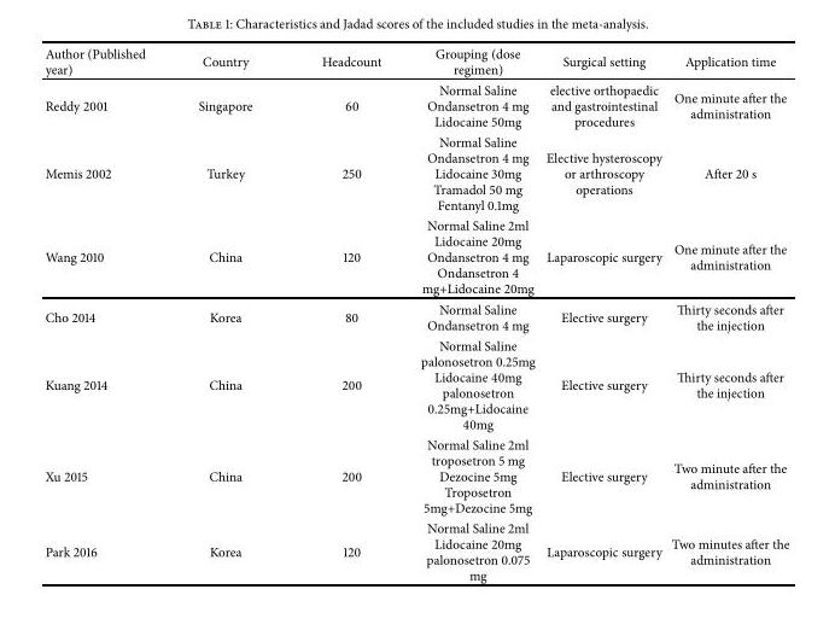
<table><thead><tr><td>Author (Published year)</td><td>Country</td><td>Headcount</td><td>Grouping (dose regimen)</td><td>Surgical setting</td><td>Application time</td></tr></thead><tbody><tr><td>Reddy 2001</td><td>Singapore</td><td>60</td><td>Normal Saline Ondansetron 4 mg Lidocaine 50mg</td><td>elective orthopaedic and gastrointestinal procedures</td><td>One minute after the administration</td></tr><tr><td>Memis 2002</td><td>Turkey</td><td>250</td><td>Normal Saline Ondansetron 4 mg Lidocaine 30mg Tramadol 50 mg Fentanyl 0.1mg</td><td>Elective hysteroscopy or arthroscopy operations</td><td>After 20 s</td></tr><tr><td>Wang 2010</td><td>China</td><td>120</td><td>Normal Saline 2ml Lidocaine 20mg Ondansetron 4 mg Ondansetron 4 mg+Lidocaine 20mg</td><td>Laparoscopic surgery</td><td>One minute after the administration</td></tr><tr><td>Cho 2014</td><td>Korea</td><td>80</td><td>Normal Saline Ondansetron 4 mg</td><td>Elective surgery</td><td>Thirty seconds after the injection</td></tr><tr><td>Kuang 2014</td><td>China</td><td>200</td><td>Normal Saline palonosetron 0.25mg Lidocaine 40mg palonosetron 0.25mg+Lidocaine 40mg</td><td>Elective surgery</td><td>Thirty seconds after the injection</td></tr><tr><td>Xu 2015</td><td>China</td><td>200</td><td>Normal Saline 2ml troposetron 5 mg Dezocine 5mg Troposetron 5mg+Dezocine 5mg</td><td>Elective surgery</td><td>Two minute after the administration</td></tr><tr><td>Park 2016</td><td>Korea</td><td>120</td><td>Normal Saline 2ml Lidocaine 20mg palonosetron 0.075 mg</td><td>Laparoscopic surgery</td><td>Two minutes after the administration</td></tr></tbody></table>